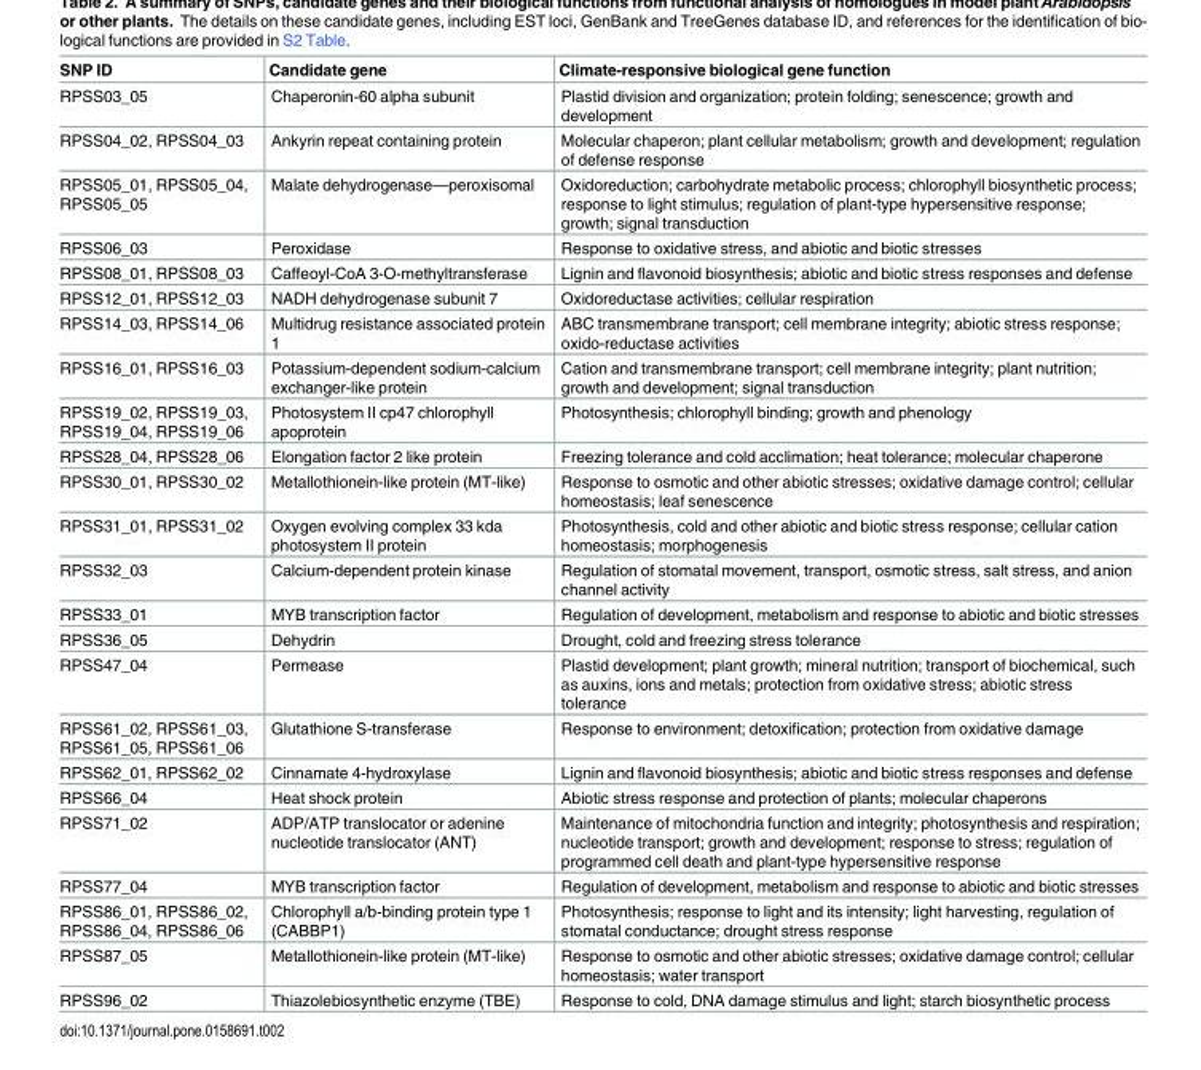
<table><thead><tr><td>SNP ID</td><td>Candidate gene</td><td>Climate-responsive biological gene function</td></tr></thead><tbody><tr><td>RPSS03_05</td><td>Chaperonin-60 alpha subunit</td><td>Plastid division and organization; protein folding; senescence; growth and development</td></tr><tr><td>RPSS04_02, RPSS04_03</td><td>Ankyrin repeat containing protein</td><td>Molecular chaperon; plant cellular metabolism; growth and development; regulation of defense response</td></tr><tr><td>RPSS05_01, RPSS05_04, RPSS05_05</td><td>Malate dehydrogenase—peroxisomal</td><td>Oxidoreduction; carbohydrate metabolic process; chlorophyll biosynthetic process; response to light stimulus; regulation of plant-type hypersensitive response; growth; signal transduction</td></tr><tr><td>RPSS06_03</td><td>Peroxidase</td><td>Response to oxidative stress, and abiotic and biotic stresses</td></tr><tr><td>RPSS08_01, RPSS08_03</td><td>Caffeoyl-CoA 3-O-methyltransferase</td><td>Lignin and flavonoid biosynthesis; abiotic and biotic stress responses and defense</td></tr><tr><td>RPSS12_01, RPSS12_03</td><td>NADH dehydrogenase subunit 7</td><td>Oxidoreductase activities; cellular respiration</td></tr><tr><td>RPSS14_03, RPSS14_06</td><td>Multidrug resistance associated protein 1</td><td>ABC transmembrane transport; cell membrane integrity; abiotic stress response; oxido-reductase activities</td></tr><tr><td>RPSS16_01, RPSS16_03</td><td>Potassium-dependent sodium-calcium exchanger-like protein</td><td>Cation and transmembrane transport; cell membrane integrity; plant nutrition; growth and development; signal transduction</td></tr><tr><td>RPSS19_02, RPSS19_03, RPSS19_04, RPSS19_06</td><td>Photosystem II cp47 chlorophyll apoprotein</td><td>Photosynthesis; chlorophyll binding; growth and phenology</td></tr><tr><td>RPSS28_04, RPSS28_06</td><td>Elongation factor 2 like protein</td><td>Freezing tolerance and cold acclimation; heat tolerance; molecular chaperone</td></tr><tr><td>RPSS30_01, RPSS30_02</td><td>Metallothionein-like protein (MT-like)</td><td>Response to osmotic and other abiotic stresses; oxidative damage control; cellular homeostasis; leaf senescence</td></tr><tr><td>RPSS31_01, RPSS31_02</td><td>Oxygen evolving complex 33 kda photosystem II protein</td><td>Photosynthesis, cold and other abiotic and biotic stress response; cellular cation homeostasis; morphogenesis</td></tr><tr><td>RPSS32_03</td><td>Calcium-dependent protein kinase</td><td>Regulation of stomatal movement, transport, osmotic stress, salt stress, and anion channel activity</td></tr><tr><td>RPSS33_01</td><td>MYB transcription factor</td><td>Regulation of development, metabolism and response to abiotic and biotic stresses</td></tr><tr><td>RPSS36_05</td><td>Dehydrin</td><td>Drought, cold and freezing stress tolerance</td></tr><tr><td>RPSS47_04</td><td>Permease</td><td>Plastid development; plant growth; mineral nutrition; transport of biochemical, such as auxins, ions and metals; protection from oxidative stress; abiotic stress tolerance</td></tr><tr><td>RPSS61_02, RPSS61_03, RPSS61_05, RPSS61_06</td><td>Glutathione S-transferase</td><td>Response to environment; detoxification; protection from oxidative damage</td></tr><tr><td>RPSS62_01, RPSS62_02</td><td>Cinnamate 4-hydroxylase</td><td>Lignin and flavonoid biosynthesis; abiotic and biotic stress responses and defense</td></tr><tr><td>RPSS66_04</td><td>Heat shock protein</td><td>Abiotic stress response and protection of plants; molecular chaperons</td></tr><tr><td>RPSS71_02</td><td>ADP/ATP translocator or adenine nucleotide translocator (ANT)</td><td>Maintenance of mitochondria function and integrity; photosynthesis and respiration; nucleotide transport; growth and development; response to stress; regulation of programmed cell death and plant-type hypersensitive response</td></tr><tr><td>RPSS77_04</td><td>MYB transcription factor</td><td>Regulation of development, metabolism and response to abiotic and biotic stresses</td></tr><tr><td>RPSS86_01, RPSS86_02, RPSS86_04, RPSS86_06</td><td>Chlorophyll a/b-binding protein type 1 (CABBP1)</td><td>Photosynthesis; response to light and its intensity; light harvesting, regulation of stomatal conductance; drought stress response</td></tr><tr><td>RPSS87_05</td><td>Metallothionein-like protein (MT-like)</td><td>Response to osmotic and other abiotic stresses; oxidative damage control; cellular homeostasis; water transport</td></tr><tr><td>RPSS96_02</td><td>Thiazolebiosynthetic enzyme (TBE)</td><td>Response to cold, DNA damage stimulus and light; starch biosynthetic process</td></tr></tbody></table>